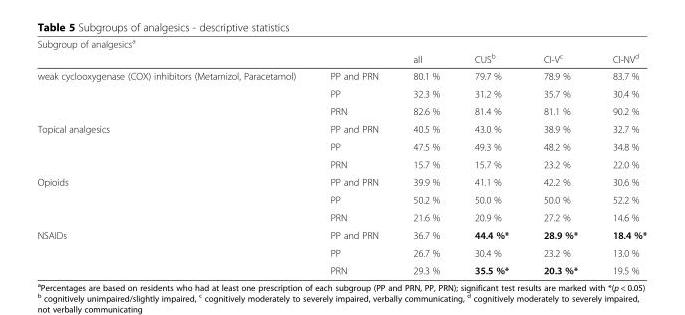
<table><thead><tr><td colspan="6">Subgroup of analgesics<sup>a</sup></td></tr><tr><td></td><td></td><td>all</td><td>CUS<sup>b</sup></td><td>CI-V<sup>c</sup></td><td>CI-NV<sup>d</sup></td></tr></thead><tbody><tr><td rowspan="3">weak cyclooxygenase (COX) inhibitors (Metamizol, Paracetamol)</td><td>PP and PRN</td><td>80.1 %</td><td>79.7 %</td><td>78.9 %</td><td>83.7 %</td></tr><tr><td>PP</td><td>32.3 %</td><td>31.2 %</td><td>35.7 %</td><td>30.4 %</td></tr><tr><td>PRN</td><td>82.6 %</td><td>81.4 %</td><td>81.1 %</td><td>90.2 %</td></tr><tr><td rowspan="3">Topical analgesics</td><td>PP and PRN</td><td>40.5 %</td><td>43.0 %</td><td>38.9 %</td><td>32.7 %</td></tr><tr><td>PP</td><td>47.5 %</td><td>49.3 %</td><td>48.2 %</td><td>34.8 %</td></tr><tr><td>PRN</td><td>15.7 %</td><td>15.7 %</td><td>23.2 %</td><td>22.0 %</td></tr><tr><td rowspan="3">Opioids</td><td>PP and PRN</td><td>39.9 %</td><td>41.1 %</td><td>42.2 %</td><td>30.6 %</td></tr><tr><td>PP</td><td>50.2 %</td><td>50.0 %</td><td>50.0 %</td><td>52.2 %</td></tr><tr><td>PRN</td><td>21.6 %</td><td>20.9 %</td><td>27.2 %</td><td>14.6 %</td></tr><tr><td rowspan="3">NSAIDs</td><td>PP and PRN</td><td>36.7 %</td><td>44.4 %*</td><td>28.9 %*</td><td>18.4 %*</td></tr><tr><td>PP</td><td>26.7 %</td><td>30.4 %</td><td>23.2 %</td><td>13.0 %</td></tr><tr><td>PRN</td><td>29.3 %</td><td>35.5 %*</td><td>20.3 %*</td><td>19.5 %</td></tr></tbody></table>